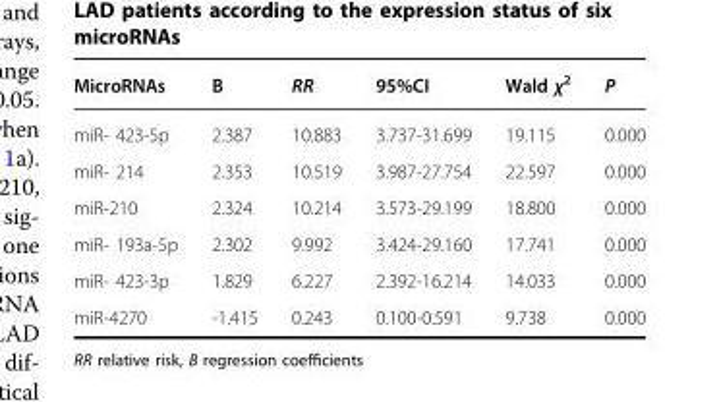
<table><thead><tr><td>MicroRNAs</td><td>B</td><td>RR</td><td>95%CI</td><td>Wald χ<sup>2</sup></td><td>P</td></tr></thead><tbody><tr><td>miR- 423-5p</td><td>2.387</td><td>10.883</td><td>3.737-31.699</td><td>19.115</td><td>0.000</td></tr><tr><td>miR- 214</td><td>2.353</td><td>10.519</td><td>3.987-27.754</td><td>22.597</td><td>0.000</td></tr><tr><td>miR-210</td><td>2.324</td><td>10.214</td><td>3.573-29.199</td><td>18.800</td><td>0.000</td></tr><tr><td>miR- 193a-5p</td><td>2.302</td><td>9.992</td><td>3.424-29.160</td><td>17.741</td><td>0.000</td></tr><tr><td>miR- 423-3p</td><td>1.829</td><td>6.227</td><td>2.392-16.214</td><td>14.033</td><td>0.000</td></tr><tr><td>miR-4270</td><td>-1.415</td><td>0.243</td><td>0.100-0.591</td><td>9.738</td><td>0.000</td></tr></tbody></table>